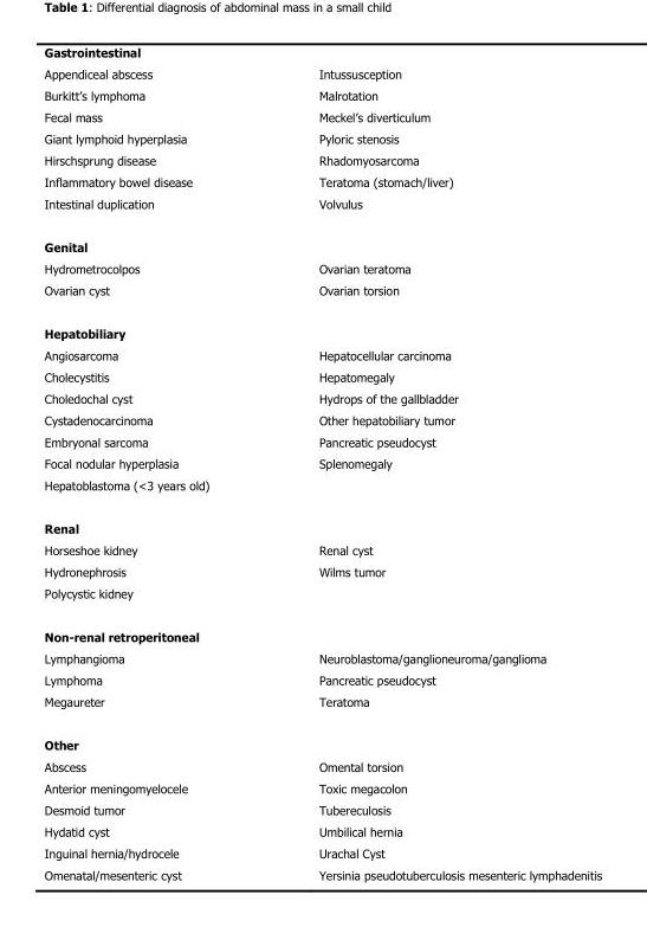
<table><thead><tr><td>Gastrointestinal</td><td></td></tr></thead><tbody><tr><td>Appendiceal abscess</td><td>Intussusception</td></tr><tr><td>Burkitt’s lymphoma</td><td>Malrotation</td></tr><tr><td>Fecal mass</td><td>Meckel’s diverticulum</td></tr><tr><td>Giant lymphoid hyperplasia</td><td>Pyloric stenosis</td></tr><tr><td>Hirschsprung disease</td><td>Rhadomyosarcoma</td></tr><tr><td>Inflammatory bowel disease</td><td>Teratoma (stomach/liver)</td></tr><tr><td>Intestinal duplication</td><td>Volvulus</td></tr><tr><td colspan="2">Genital</td></tr><tr><td>Hydrometrocolpos</td><td>Ovarian teratoma</td></tr><tr><td>Ovarian cyst</td><td>Ovarian torsion</td></tr><tr><td colspan="2">Hepatobiliary</td></tr><tr><td>Angiosarcoma</td><td>Hepatocellular carcinoma</td></tr><tr><td>Cholecystitis</td><td>Hepatomegaly</td></tr><tr><td>Choledochal cyst</td><td>Hydrops of the gallbladder</td></tr><tr><td>Cystadenocarcinoma</td><td>Other hepatobiliary tumor</td></tr><tr><td>Embryonal sarcoma</td><td>Pancreatic pseudocyst</td></tr><tr><td>Focal nodular hyperplasia</td><td>Splenomegaly</td></tr><tr><td colspan="2">Hepatoblastoma (&lt;3 years old)</td></tr><tr><td colspan="2">Renal</td></tr><tr><td>Horseshoe kidney</td><td>Renal cyst</td></tr><tr><td>Hydronephrosis</td><td>Wilms tumor</td></tr><tr><td colspan="2">Polycystic kidney</td></tr><tr><td colspan="2">Non-renal retroperitoneal</td></tr><tr><td>Lymphangioma</td><td>Neuroblastoma/ganglioneuroma/ganglioma</td></tr><tr><td>Lymphoma</td><td>Pancreatic pseudocyst</td></tr><tr><td>Megaureter</td><td>Teratoma</td></tr><tr><td colspan="2">Other</td></tr><tr><td>Abscess</td><td>Omental torsion</td></tr><tr><td>Anterior meningomyelocele</td><td>Toxic megacolon</td></tr><tr><td>Desmoid tumor</td><td>Tubereculosis</td></tr><tr><td>Hydatid cyst</td><td>Umbilical hernia</td></tr><tr><td>Inguinal hernia/hydrocele</td><td>Urachal Cyst</td></tr><tr><td>Omenatal/mesenteric cyst</td><td>Yersinia pseudotuberculosis mesenteric lymphadenitis</td></tr></tbody></table>